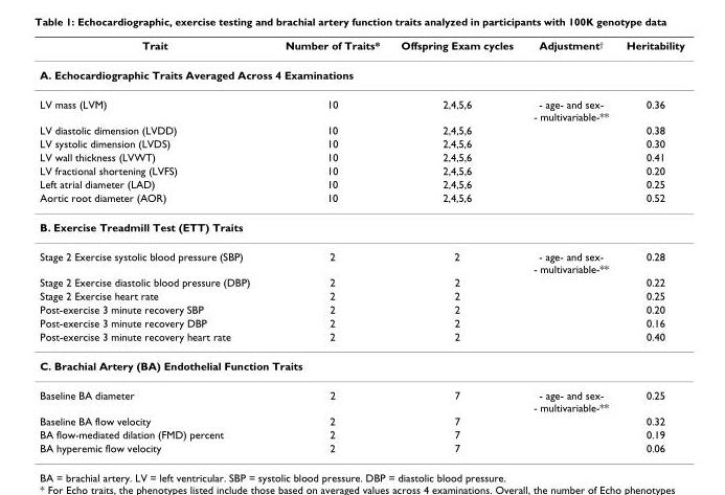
<table><thead><tr><td>Trait</td><td>Number of Traits*</td><td>Offspring Exam cycles</td><td>Adjustment<sup>†</sup></td><td>Heritability</td></tr></thead><tbody><tr><td colspan="5">A. Echocardiographic Traits Averaged Across 4 Examinations</td></tr><tr><td>LV mass (LVM)</td><td>10</td><td>2,4,5,6</td><td>- age- and sex- - multivariable-**</td><td>0.36</td></tr><tr><td>LV diastolic dimension (LVDD)</td><td>10</td><td>2,4,5,6</td><td></td><td>0.38</td></tr><tr><td>LV systolic dimension (LVDS)</td><td>10</td><td>2,4,5,6</td><td></td><td>0.30</td></tr><tr><td>LV wall thickness (LVWT)</td><td>10</td><td>2,4,5,6</td><td></td><td>0.41</td></tr><tr><td>LV fractional shortening (LVFS)</td><td>10</td><td>2,4,5,6</td><td></td><td>0.20</td></tr><tr><td>Left atrial diameter (LAD)</td><td>10</td><td>2,4,5,6</td><td></td><td>0.25</td></tr><tr><td>Aortic root diameter (AOR)</td><td>10</td><td>2,4,5,6</td><td></td><td>0.52</td></tr><tr><td colspan="5">B. Exercise Treadmill Test (ETT) Traits</td></tr><tr><td>Stage 2 Exercise systolic blood pressure (SBP)</td><td>2</td><td>2</td><td>- age- and sex- - multivariable-**</td><td>0.28</td></tr><tr><td>Stage 2 Exercise diastolic blood pressure (DBP)</td><td>2</td><td>2</td><td></td><td>0.22</td></tr><tr><td>Stage 2 Exercise heart rate</td><td>2</td><td>2</td><td></td><td>0.25</td></tr><tr><td>Post-exercise 3 minute recovery SBP</td><td>2</td><td>2</td><td></td><td>0.20</td></tr><tr><td>Post-exercise 3 minute recovery DBP</td><td>2</td><td>2</td><td></td><td>0.16</td></tr><tr><td>Post-exercise 3 minute recovery heart rate</td><td>2</td><td>2</td><td></td><td>0.40</td></tr><tr><td colspan="5">C. Brachial Artery (BA) Endothelial Function Traits</td></tr><tr><td>Baseline BA diameter</td><td>2</td><td>7</td><td>- age- and sex- - multivariable-**</td><td>0.25</td></tr><tr><td>Baseline BA flow velocity</td><td>2</td><td>7</td><td></td><td>0.32</td></tr><tr><td>BA flow-mediated dilation (FMD) percent</td><td>2</td><td>7</td><td></td><td>0.19</td></tr><tr><td>BA hyperemic flow velocity</td><td>2</td><td>7</td><td></td><td>0.06</td></tr></tbody></table>